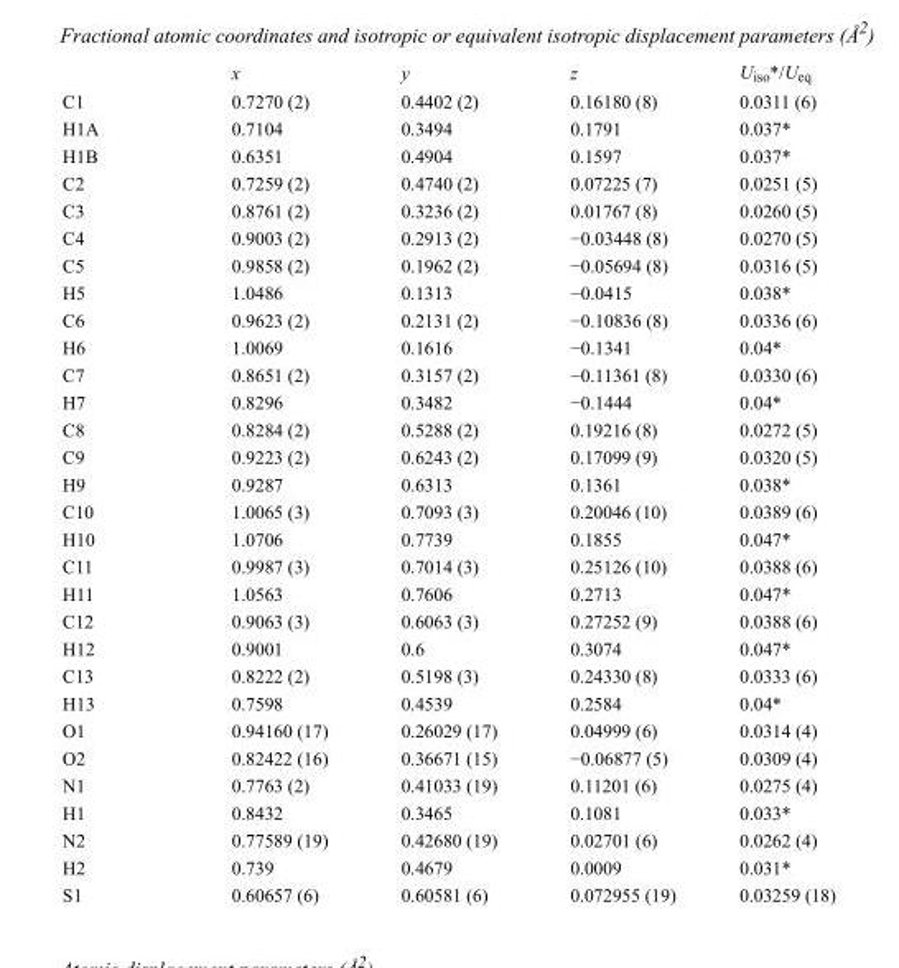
<table><thead><tr><td></td><td>x</td><td>y</td><td>z</td><td>U<sub>iso</sub>*/U<sub>eq</sub></td></tr></thead><tbody><tr><td>C1</td><td>0.7270 (2)</td><td>0.4402 (2)</td><td>0.16180 (8)</td><td>0.0311 (6)</td></tr><tr><td>H1A</td><td>0.7104</td><td>0.3494</td><td>0.1791</td><td>0.037*</td></tr><tr><td>H1B</td><td>0.6351</td><td>0.4904</td><td>0.1597</td><td>0.037*</td></tr><tr><td>C2</td><td>0.7259 (2)</td><td>0.4740 (2)</td><td>0.07225 (7)</td><td>0.0251 (5)</td></tr><tr><td>C3</td><td>0.8761 (2)</td><td>0.3236 (2)</td><td>0.01767 (8)</td><td>0.0260 (5)</td></tr><tr><td>C4</td><td>0.9003 (2)</td><td>0.2913 (2)</td><td>−0.03448 (8)</td><td>0.0270 (5)</td></tr><tr><td>C5</td><td>0.9858 (2)</td><td>0.1962 (2)</td><td>−0.05694 (8)</td><td>0.0316 (5)</td></tr><tr><td>H5</td><td>1.0486</td><td>0.1313</td><td>−0.0415</td><td>0.038*</td></tr><tr><td>C6</td><td>0.9623 (2)</td><td>0.2131 (2)</td><td>−0.10836 (8)</td><td>0.0336 (6)</td></tr><tr><td>H6</td><td>1.0069</td><td>0.1616</td><td>−0.1341</td><td>0.04*</td></tr><tr><td>C7</td><td>0.8651 (2)</td><td>0.3157 (2)</td><td>−0.11361 (8)</td><td>0.0330 (6)</td></tr><tr><td>H7</td><td>0.8296</td><td>0.3482</td><td>−0.1444</td><td>0.04*</td></tr><tr><td>C8</td><td>0.8284 (2)</td><td>0.5288 (2)</td><td>0.19216 (8)</td><td>0.0272 (5)</td></tr><tr><td>C9</td><td>0.9223 (2)</td><td>0.6243 (2)</td><td>0.17099 (9)</td><td>0.0320 (5)</td></tr><tr><td>H9</td><td>0.9287</td><td>0.6313</td><td>0.1361</td><td>0.038*</td></tr><tr><td>C10</td><td>1.0065 (3)</td><td>0.7093 (3)</td><td>0.20046 (10)</td><td>0.0389 (6)</td></tr><tr><td>H10</td><td>1.0706</td><td>0.7739</td><td>0.1855</td><td>0.047*</td></tr><tr><td>C11</td><td>0.9987 (3)</td><td>0.7014 (3)</td><td>0.25126 (10)</td><td>0.0388 (6)</td></tr><tr><td>H11</td><td>1.0563</td><td>0.7606</td><td>0.2713</td><td>0.047*</td></tr><tr><td>C12</td><td>0.9063 (3)</td><td>0.6063 (3)</td><td>0.27252 (9)</td><td>0.0388 (6)</td></tr><tr><td>H12</td><td>0.9001</td><td>0.6</td><td>0.3074</td><td>0.047*</td></tr><tr><td>C13</td><td>0.8222 (2)</td><td>0.5198 (3)</td><td>0.24330 (8)</td><td>0.0333 (6)</td></tr><tr><td>H13</td><td>0.7598</td><td>0.4539</td><td>0.2584</td><td>0.04*</td></tr><tr><td>O1</td><td>0.94160 (17)</td><td>0.26029 (17)</td><td>0.04999 (6)</td><td>0.0314 (4)</td></tr><tr><td>O2</td><td>0.82422 (16)</td><td>0.36671 (15)</td><td>−0.06877 (5)</td><td>0.0309 (4)</td></tr><tr><td>N1</td><td>0.7763 (2)</td><td>0.41033 (19)</td><td>0.11201 (6)</td><td>0.0275 (4)</td></tr><tr><td>H1</td><td>0.8432</td><td>0.3465</td><td>0.1081</td><td>0.033*</td></tr><tr><td>N2</td><td>0.77589 (19)</td><td>0.42680 (19)</td><td>0.02701 (6)</td><td>0.0262 (4)</td></tr><tr><td>H2</td><td>0.739</td><td>0.4679</td><td>0.0009</td><td>0.031*</td></tr><tr><td>S1</td><td>0.60657 (6)</td><td>0.60581 (6)</td><td>0.072955 (19)</td><td>0.03259 (18)</td></tr></tbody></table>